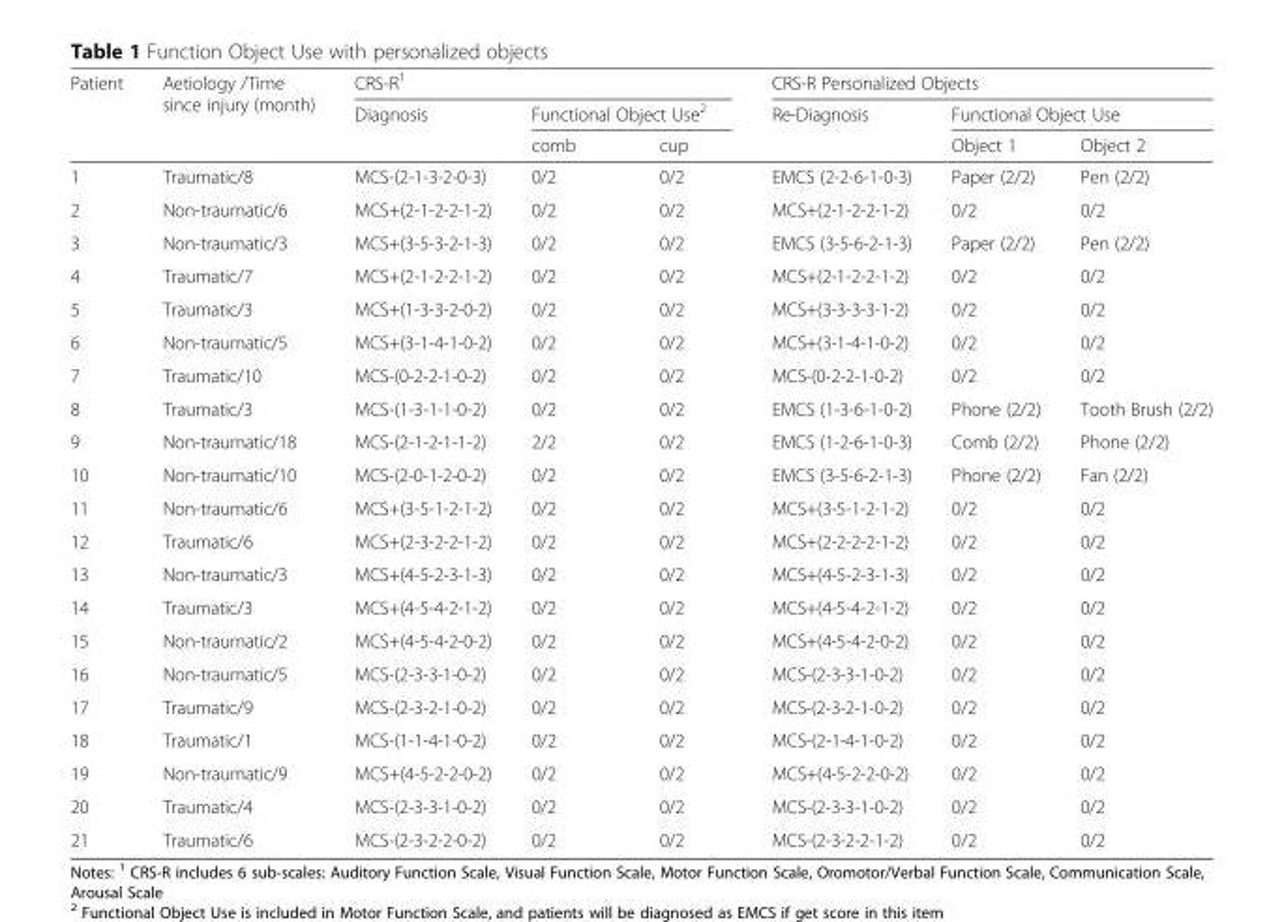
<table><thead><tr><td rowspan="3">Patient</td><td rowspan="3">Aetiology /Time since injury (month)</td><td colspan="3">CRS-R<sup>1</sup></td><td colspan="3">CRS-R Personalized Objects</td></tr><tr><td rowspan="2">Diagnosis</td><td colspan="2">Functional Object Use<sup>2</sup></td><td rowspan="2">Re-Diagnosis</td><td colspan="2">Functional Object Use</td></tr><tr><td>comb</td><td>cup</td><td>Object 1</td><td>Object 2</td></tr></thead><tbody><tr><td>1</td><td>Traumatic/8</td><td>MCS-(2-1-3-2-0-3)</td><td>0/2</td><td>0/2</td><td>EMCS (2-2-6-1-0-3)</td><td>Paper (2/2)</td><td>Pen (2/2)</td></tr><tr><td>2</td><td>Non-traumatic/6</td><td>MCS+(2-1-2-2-1-2)</td><td>0/2</td><td>0/2</td><td>MCS+(2-1-2-2-1-2)</td><td>0/2</td><td>0/2</td></tr><tr><td>3</td><td>Non-traumatic/3</td><td>MCS+(3-5-3-2-1-3)</td><td>0/2</td><td>0/2</td><td>EMCS (3-5-6-2-1-3)</td><td>Paper (2/2)</td><td>Pen (2/2)</td></tr><tr><td>4</td><td>Traumatic/7</td><td>MCS+(2-1-2-2-1-2)</td><td>0/2</td><td>0/2</td><td>MCS+(2-1-2-2-1-2)</td><td>0/2</td><td>0/2</td></tr><tr><td>5</td><td>Traumatic/3</td><td>MCS+(1-3-3-2-0-2)</td><td>0/2</td><td>0/2</td><td>MCS+(3-3-3-3-1-2)</td><td>0/2</td><td>0/2</td></tr><tr><td>6</td><td>Non-traumatic/5</td><td>MCS+(3-1-4-1-0-2)</td><td>0/2</td><td>0/2</td><td>MCS+(3-1-4-1-0-2)</td><td>0/2</td><td>0/2</td></tr><tr><td>7</td><td>Traumatic/10</td><td>MCS-(0-2-2-1-0-2)</td><td>0/2</td><td>0/2</td><td>MCS-(0-2-2-1-0-2)</td><td>0/2</td><td>0/2</td></tr><tr><td>8</td><td>Traumatic/3</td><td>MCS-(1-3-1-1-0-2)</td><td>0/2</td><td>0/2</td><td>EMCS (1-3-6-1-0-2)</td><td>Phone (2/2)</td><td>Tooth Brush (2/2)</td></tr><tr><td>9</td><td>Non-traumatic/18</td><td>MCS-(2-1-2-1-1-2)</td><td>2/2</td><td>0/2</td><td>EMCS (1-2-6-1-0-3)</td><td>Comb (2/2)</td><td>Phone (2/2)</td></tr><tr><td>10</td><td>Non-traumatic/10</td><td>MCS-(2-0-1-2-0-2)</td><td>0/2</td><td>0/2</td><td>EMCS (3-5-6-2-1-3)</td><td>Phone (2/2)</td><td>Fan (2/2)</td></tr><tr><td>11</td><td>Non-traumatic/6</td><td>MCS+(3-5-1-2-1-2)</td><td>0/2</td><td>0/2</td><td>MCS+(3-5-1-2-1-2)</td><td>0/2</td><td>0/2</td></tr><tr><td>12</td><td>Traumatic/6</td><td>MCS+(2-3-2-2-1-2)</td><td>0/2</td><td>0/2</td><td>MCS+(2-2-2-2-1-2)</td><td>0/2</td><td>0/2</td></tr><tr><td>13</td><td>Non-traumatic/3</td><td>MCS+(4-5-2-3-1-3)</td><td>0/2</td><td>0/2</td><td>MCS+(4-5-2-3-1-3)</td><td>0/2</td><td>0/2</td></tr><tr><td>14</td><td>Traumatic/3</td><td>MCS+(4-5-4-2-1-2)</td><td>0/2</td><td>0/2</td><td>MCS+(4-5-4-2-1-2)</td><td>0/2</td><td>0/2</td></tr><tr><td>15</td><td>Non-traumatic/2</td><td>MCS+(4-5-4-2-0-2)</td><td>0/2</td><td>0/2</td><td>MCS+(4-5-4-2-0-2)</td><td>0/2</td><td>0/2</td></tr><tr><td>16</td><td>Non-traumatic/5</td><td>MCS-(2-3-3-1-0-2)</td><td>0/2</td><td>0/2</td><td>MCS-(2-3-3-1-0-2)</td><td>0/2</td><td>0/2</td></tr><tr><td>17</td><td>Traumatic/9</td><td>MCS-(2-3-2-1-0-2)</td><td>0/2</td><td>0/2</td><td>MCS-(2-3-2-1-0-2)</td><td>0/2</td><td>0/2</td></tr><tr><td>18</td><td>Traumatic/1</td><td>MCS-(1-1-4-1-0-2)</td><td>0/2</td><td>0/2</td><td>MCS-(2-1-4-1-0-2)</td><td>0/2</td><td>0/2</td></tr><tr><td>19</td><td>Non-traumatic/9</td><td>MCS+(4-5-2-2-0-2)</td><td>0/2</td><td>0/2</td><td>MCS+(4-5-2-2-0-2)</td><td>0/2</td><td>0/2</td></tr><tr><td>20</td><td>Traumatic/4</td><td>MCS-(2-3-3-1-0-2)</td><td>0/2</td><td>0/2</td><td>MCS-(2-3-3-1-0-2)</td><td>0/2</td><td>0/2</td></tr><tr><td>21</td><td>Traumatic/6</td><td>MCS-(2-3-2-2-0-2)</td><td>0/2</td><td>0/2</td><td>MCS-(2-3-2-2-1-2)</td><td>0/2</td><td>0/2</td></tr></tbody></table>